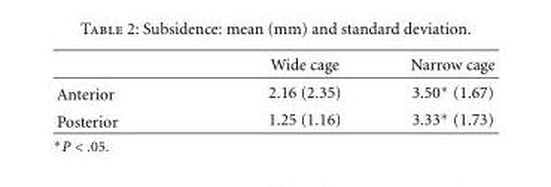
<table><thead><tr><td></td><td>Wide cage</td><td>Narrow cage</td></tr></thead><tbody><tr><td>Anterior</td><td>2.16 (2.35)</td><td>3.50∗ (1.67)</td></tr><tr><td>Posterior</td><td>1.25 (1.16)</td><td>3.33∗ (1.73)</td></tr></tbody></table>